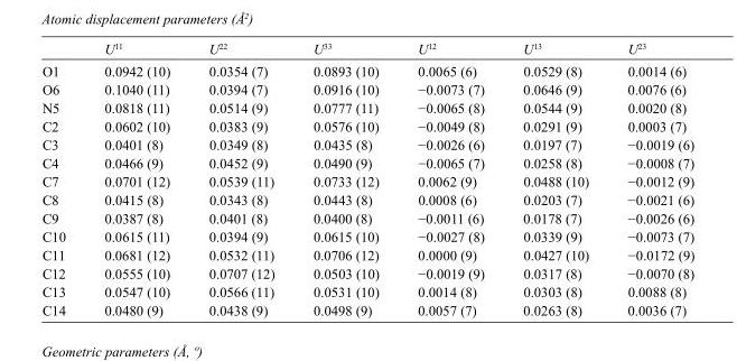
<table><thead><tr><td></td><td>U<sup>11</sup></td><td>U<sup>22</sup></td><td>U<sup>33</sup></td><td>U<sup>12</sup></td><td>U<sup>13</sup></td><td>U<sup>23</sup></td></tr></thead><tbody><tr><td>O1</td><td>0.0942 (10)</td><td>0.0354 (7)</td><td>0.0893 (10)</td><td>0.0065 (6)</td><td>0.0529 (8)</td><td>0.0014 (6)</td></tr><tr><td>O6</td><td>0.1040 (11)</td><td>0.0394 (7)</td><td>0.0916 (10)</td><td>−0.0073 (7)</td><td>0.0646 (9)</td><td>0.0076 (6)</td></tr><tr><td>N5</td><td>0.0818 (11)</td><td>0.0514 (9)</td><td>0.0777 (11)</td><td>−0.0065 (8)</td><td>0.0544 (9)</td><td>0.0020 (8)</td></tr><tr><td>C2</td><td>0.0602 (10)</td><td>0.0383 (9)</td><td>0.0576 (10)</td><td>−0.0049 (8)</td><td>0.0291 (9)</td><td>0.0003 (7)</td></tr><tr><td>C3</td><td>0.0401 (8)</td><td>0.0349 (8)</td><td>0.0435 (8)</td><td>−0.0026 (6)</td><td>0.0197 (7)</td><td>−0.0019 (6)</td></tr><tr><td>C4</td><td>0.0466 (9)</td><td>0.0452 (9)</td><td>0.0490 (9)</td><td>−0.0065 (7)</td><td>0.0258 (8)</td><td>−0.0008 (7)</td></tr><tr><td>C7</td><td>0.0701 (12)</td><td>0.0539 (11)</td><td>0.0733 (12)</td><td>0.0062 (9)</td><td>0.0488 (10)</td><td>−0.0012 (9)</td></tr><tr><td>C8</td><td>0.0415 (8)</td><td>0.0343 (8)</td><td>0.0443 (8)</td><td>0.0008 (6)</td><td>0.0203 (7)</td><td>−0.0021 (6)</td></tr><tr><td>C9</td><td>0.0387 (8)</td><td>0.0401 (8)</td><td>0.0400 (8)</td><td>−0.0011 (6)</td><td>0.0178 (7)</td><td>−0.0026 (6)</td></tr><tr><td>C10</td><td>0.0615 (11)</td><td>0.0394 (9)</td><td>0.0615 (10)</td><td>−0.0027 (8)</td><td>0.0339 (9)</td><td>−0.0073 (7)</td></tr><tr><td>C11</td><td>0.0681 (12)</td><td>0.0532 (11)</td><td>0.0706 (12)</td><td>0.0000 (9)</td><td>0.0427 (10)</td><td>−0.0172 (9)</td></tr><tr><td>C12</td><td>0.0555 (10)</td><td>0.0707 (12)</td><td>0.0503 (10)</td><td>−0.0019 (9)</td><td>0.0317 (8)</td><td>−0.0070 (8)</td></tr><tr><td>C13</td><td>0.0547 (10)</td><td>0.0566 (11)</td><td>0.0531 (10)</td><td>0.0014 (8)</td><td>0.0303 (8)</td><td>0.0088 (8)</td></tr><tr><td>C14</td><td>0.0480 (9)</td><td>0.0438 (9)</td><td>0.0498 (9)</td><td>0.0057 (7)</td><td>0.0263 (8)</td><td>0.0036 (7)</td></tr></tbody></table>